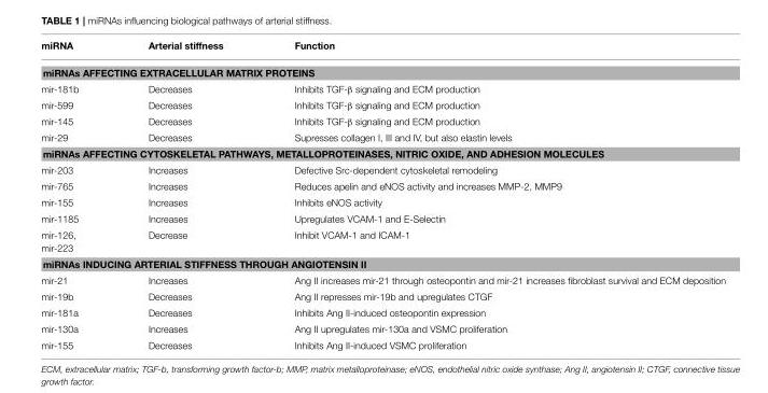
<table><thead><tr><td>miRNA</td><td>Arterial stiffness</td><td>Function</td></tr></thead><tbody><tr><td colspan="3">miRNAs AFFECTING EXTRACELLULAR MATRIX PROTEINS</td></tr><tr><td>mir-181b</td><td>Decreases</td><td>Inhibits TGF-β signaling and ECM production</td></tr><tr><td>mir-599</td><td>Decreases</td><td>Inhibits TGF-β signaling and ECM production</td></tr><tr><td>mir-145</td><td>Decreases</td><td>Inhibits TGF-β signaling and ECM production</td></tr><tr><td>mir-29</td><td>Decreases</td><td>Supresses collagen I, III and IV, but also elastin levels</td></tr><tr><td colspan="3">miRNAs AFFECTING CYTOSKELETAL PATHWAYS, METALLOPROTEINASES, NITRIC OXIDE, AND ADHESION MOLECULES</td></tr><tr><td>mir-203</td><td>Increases</td><td>Defective Src-dependent cytoskeletal remodeling</td></tr><tr><td>mir-765</td><td>Increases</td><td>Reduces apelin and eNOS activity and increases MMP-2, MMP9</td></tr><tr><td>mir-155</td><td>Increases</td><td>Inhibits eNOS activity</td></tr><tr><td>mir-1185</td><td>Increases</td><td>Upregulates VCAM-1 and E-Selectin</td></tr><tr><td>mir-126, mir-223</td><td>Decrease</td><td>Inhibit VCAM-1 and ICAM-1</td></tr><tr><td colspan="3">miRNAs INDUCING ARTERIAL STIFFNESS THROUGH ANGIOTENSIN II</td></tr><tr><td>mir-21</td><td>Increases</td><td>Ang II increases mir-21 through osteopontin and mir-21 increases fibroblast survival and ECM deposition</td></tr><tr><td>mir-19b</td><td>Decreases</td><td>Ang II represses mir-19b and upregulates CTGF</td></tr><tr><td>mir-181a</td><td>Decreases</td><td>Inhibits Ang II-induced osteopontin expression</td></tr><tr><td>mir-130a</td><td>Increases</td><td>Ang II upregulates mir-130a and VSMC proliferation</td></tr><tr><td>mir-155</td><td>Decreases</td><td>Inhibits Ang II-induced VSMC proliferation</td></tr></tbody></table>